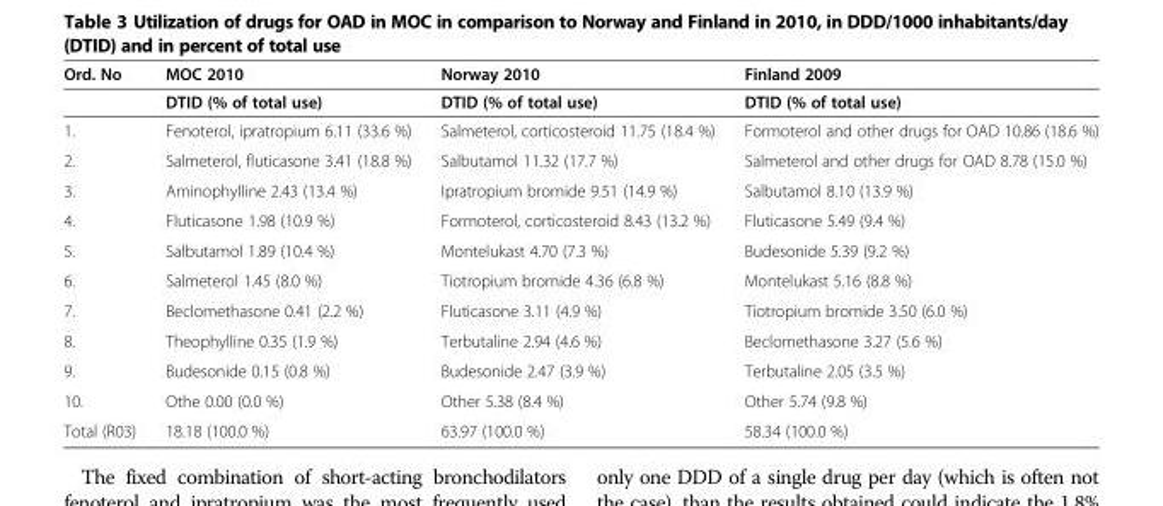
<table><thead><tr><td rowspan="2">Ord. No</td><td rowspan="2">MOC 2010 DTID (% of total use)</td><td rowspan="2">Norway 2010 DTID (% of total use)</td><td rowspan="2">Finland 2009 DTID (% of total use)</td></tr><tr></tr></thead><tbody><tr><td>1.</td><td>Fenoterol, ipratropium 6.11 (33.6 %)</td><td>Salmeterol, corticosteroid 11.75 (18.4 %)</td><td>Formoterol and other drugs for OAD 10.86 (18.6 %)</td></tr><tr><td>2.</td><td>Salmeterol, fluticasone 3.41 (18.8 %)</td><td>Salbutamol 11.32 (17.7 %)</td><td>Salmeterol and other drugs for OAD 8.78 (15.0 %)</td></tr><tr><td>3.</td><td>Aminophylline 2.43 (13.4 %)</td><td>Ipratropium bromide 9.51 (14.9 %)</td><td>Salbutamol 8.10 (13.9 %)</td></tr><tr><td>4.</td><td>Fluticasone 1.98 (10.9 %)</td><td>Formoterol, corticosteroid 8.43 (13.2 %)</td><td>Fluticasone 5.49 (9.4 %)</td></tr><tr><td>5.</td><td>Salbutamol 1.89 (10.4 %)</td><td>Montelukast 4.70 (7.3 %)</td><td>Budesonide 5.39 (9.2 %)</td></tr><tr><td>6.</td><td>Salmeterol 1.45 (8.0 %)</td><td>Tiotropium bromide 4.36 (6.8 %)</td><td>Montelukast 5.16 (8.8 %)</td></tr><tr><td>7.</td><td>Beclomethasone 0.41 (2.2 %)</td><td>Fluticasone 3.11 (4.9 %)</td><td>Tiotropium bromide 3.50 (6.0 %)</td></tr><tr><td>8.</td><td>Theophylline 0.35 (1.9 %)</td><td>Terbutaline 2.94 (4.6 %)</td><td>Beclomethasone 3.27 (5.6 %)</td></tr><tr><td>9.</td><td>Budesonide 0.15 (0.8 %)</td><td>Budesonide 2.47 (3.9 %)</td><td>Terbutaline 2.05 (3.5 %)</td></tr><tr><td>10.</td><td>Othe 0.00 (0.0 %)</td><td>Other 5.38 (8.4 %)</td><td>Other 5.74 (9.8 %)</td></tr><tr><td>Total (R03)</td><td>18.18 (100.0 %)</td><td>63.97 (100.0 %)</td><td>58.34 (100.0 %)</td></tr></tbody></table>